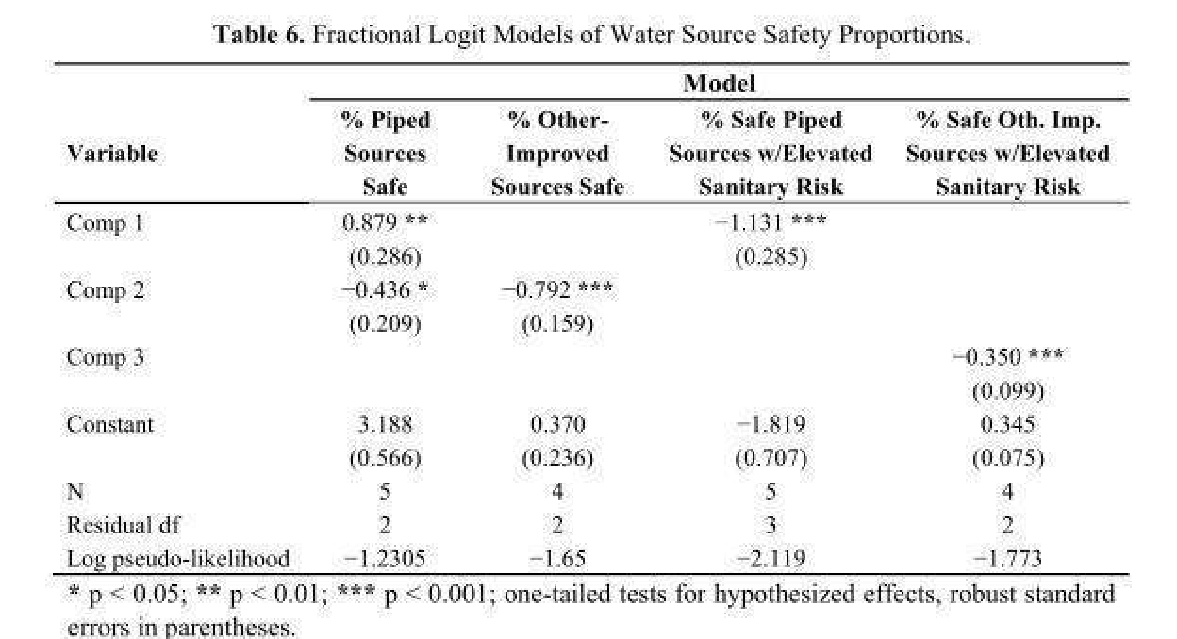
<table><thead><tr><td rowspan="2">Variable</td><td colspan="4">Model</td></tr><tr><td>% Piped Sources Safe</td><td>% Other- Improved Sources Safe</td><td>% Safe Piped Sources w/Elevated Sanitary Risk</td><td>% Safe Oth. Imp. Sources w/Elevated Sanitary Risk</td></tr></thead><tbody><tr><td rowspan="2">Comp 1</td><td>0.879 **</td><td></td><td>−1.131 ***</td><td></td></tr><tr><td>(0.286)</td><td></td><td>(0.285)</td><td></td></tr><tr><td rowspan="2">Comp 2</td><td>−0.436 *</td><td>−0.792 ***</td><td></td><td></td></tr><tr><td>(0.209)</td><td>(0.159)</td><td></td><td></td></tr><tr><td rowspan="2">Comp 3</td><td></td><td></td><td></td><td>−0.350 ***</td></tr><tr><td></td><td></td><td></td><td>(0.099)</td></tr><tr><td rowspan="2">Constant</td><td>3.188</td><td>0.370</td><td>−1.819</td><td>0.345</td></tr><tr><td>(0.566)</td><td>(0.236)</td><td>(0.707)</td><td>(0.075)</td></tr><tr><td>N</td><td>5</td><td>4</td><td>5</td><td>4</td></tr><tr><td>Residual df</td><td>2</td><td>2</td><td>3</td><td>2</td></tr><tr><td>Log pseudo-likelihood</td><td>−1.2305</td><td>−1.65</td><td>−2.119</td><td>−1.773</td></tr></tbody></table>